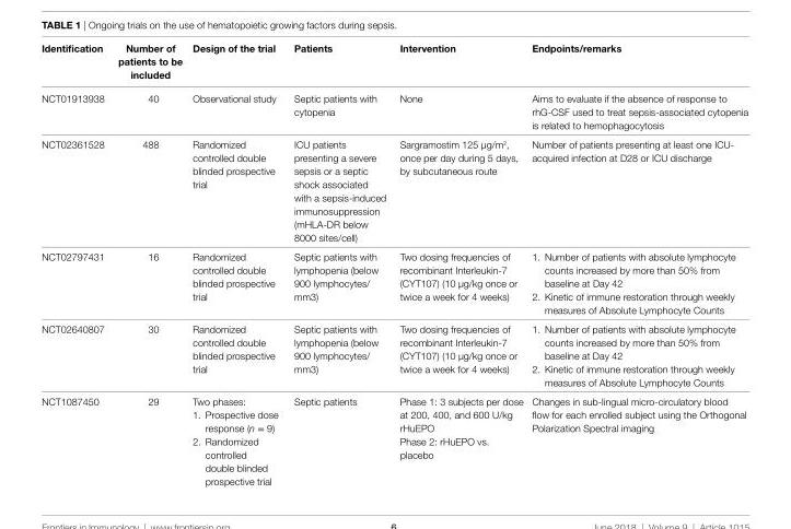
<table><thead><tr><td>identification</td><td>Number of patients to be included</td><td>Design of the trial</td><td>Patients</td><td>intervention</td><td>endpoints/remarks</td></tr></thead><tbody><tr><td>NCT01913938</td><td>40</td><td>Observational study</td><td>Septic patients with cytopenia</td><td>None</td><td>Aims to evaluate if the absence of response to rhG-CSF used to treat sepsis-associated cytopenia is related to hemophagocytosis</td></tr><tr><td>NCT02361528</td><td>488</td><td>Randomized controlled double blinded prospective trial</td><td>ICU patients presenting a severe sepsis or a septic shock associated with a sepsis-induced immunosuppression (mHLA-DR below 8000 sites/cell)</td><td>Sargramostim 125 µg/m<sup>2</sup>, once per day during 5 days, by subcutaneous route</td><td>Number of patients presenting at least one ICU- acquired infection at D28 or ICU discharge</td></tr><tr><td>NCT02797431</td><td>16</td><td>Randomized controlled double blinded prospective trial</td><td>Septic patients with lymphopenia (below 900 lymphocytes/ mm3)</td><td>Two dosing frequencies of recombinant Interleukin-7 (CYT107) (10 µg/kg once or twice a week for 4 weeks)</td><td>1. Number of patients with absolute lymphocyte counts increased by more than 50% from baseline at Day 42 2. Kinetic of immune restoration through weekly measures of Absolute Lymphocyte Counts</td></tr><tr><td>NCT02640807</td><td>30</td><td>Randomized controlled double blinded prospective trial</td><td>Septic patients with lymphopenia (below 900 lymphocytes/ mm3)</td><td>Two dosing frequencies of recombinant Interleukin-7 (CYT107) (10 µg/kg once or twice a week for 4 weeks)</td><td>1. Number of patients with absolute lymphocyte counts increased by more than 50% from baseline at Day 42 2. Kinetic of immune restoration through weekly measures of Absolute Lymphocyte Counts</td></tr><tr><td>NCT1087450</td><td>29</td><td>Two phases: 1. Prospective dose response (n = 9) 2. Randomized controlled double blinded prospective trial</td><td>Septic patients</td><td>Phase 1: 3 subjects per dose at 200, 400, and 600 U/kg rHuEPO Phase 2: rHuEPO vs. placebo</td><td>Changes in sub-lingual micro-circulatory blood flow for each enrolled subject using the Orthogonal Polarization Spectral imaging</td></tr></tbody></table>